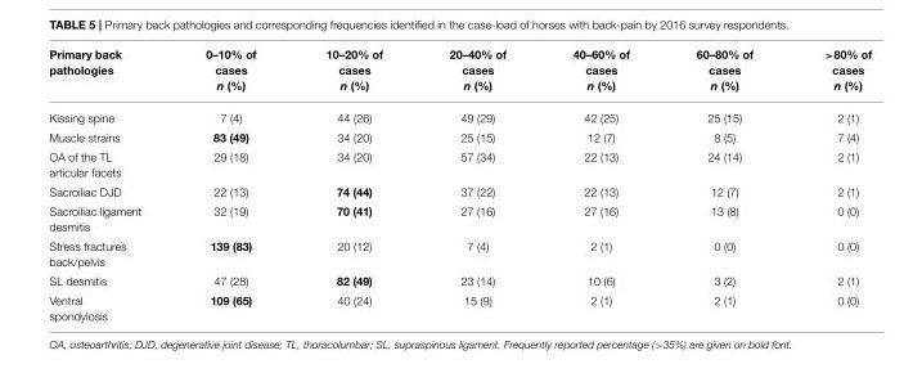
<table><thead><tr><td>Primary back pathologies</td><td>0–10% of cases n (%)</td><td>10–20% of cases n (%)</td><td>20–40% of cases n (%)</td><td>40–60% of cases n (%)</td><td>60–80% of cases n (%)</td><td>&gt;80% of cases n (%)</td></tr></thead><tbody><tr><td>Kissing spine</td><td>7 (4)</td><td>44 (26)</td><td>49 (29)</td><td>42 (25)</td><td>25 (15)</td><td>2 (1)</td></tr><tr><td>Muscle strains</td><td>83 (49)</td><td>34 (20)</td><td>25 (15)</td><td>12 (7)</td><td>8 (5)</td><td>7 (4)</td></tr><tr><td>OA of the TL articular facets</td><td>29 (18)</td><td>34 (20)</td><td>57 (34)</td><td>22 (13)</td><td>24 (14)</td><td>2 (1)</td></tr><tr><td>Sacroiliac DJD</td><td>22 (13)</td><td>74 (44)</td><td>37 (22)</td><td>22 (13)</td><td>12 (7)</td><td>2 (1)</td></tr><tr><td>Sacroiliac ligament desmitis</td><td>32 (19)</td><td>70 (41)</td><td>27 (16)</td><td>27 (16)</td><td>13 (8)</td><td>0 (0)</td></tr><tr><td>Stress fractures back/pelvis</td><td>139 (83)</td><td>20 (12)</td><td>7 (4)</td><td>2 (1)</td><td>0 (0)</td><td>0 (0)</td></tr><tr><td>SL desmitis</td><td>47 (28)</td><td>82 (49)</td><td>23 (14)</td><td>10 (6)</td><td>3 (2)</td><td>2 (1)</td></tr><tr><td>Ventral spondylosis</td><td>109 (65)</td><td>40 (24)</td><td>15 (9)</td><td>2 (1)</td><td>2 (1)</td><td>0 (0)</td></tr></tbody></table>